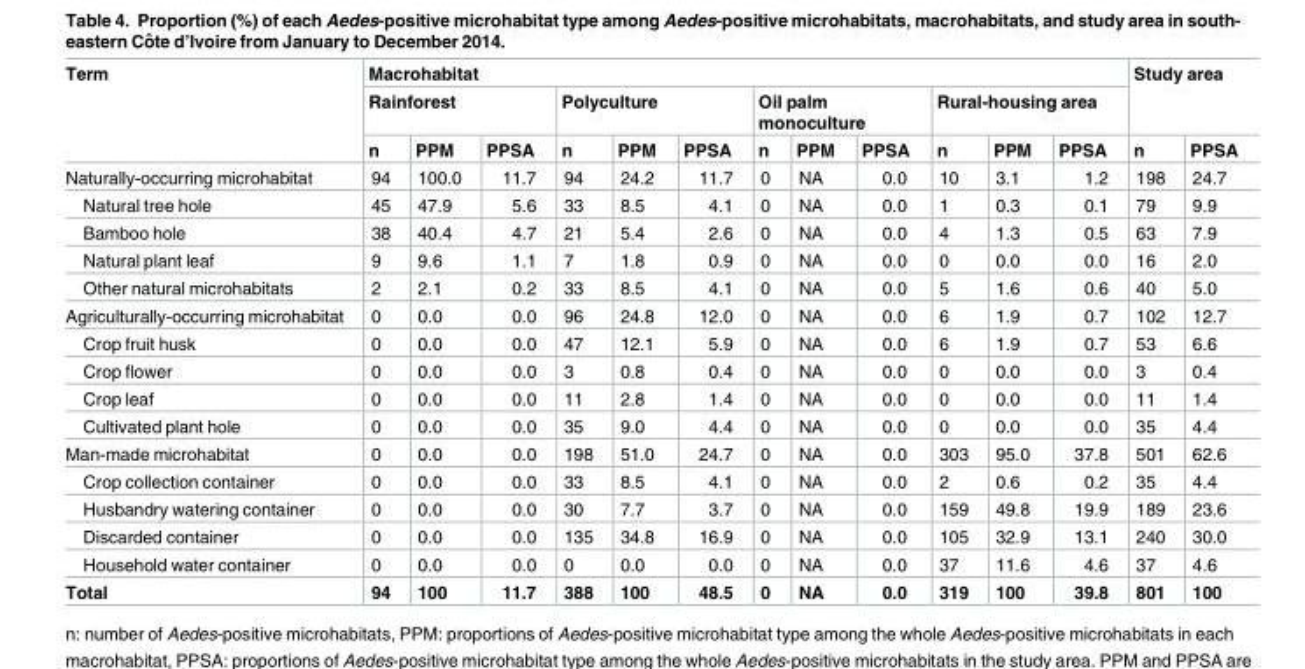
<table><thead><tr><td rowspan="3">Term</td><td colspan="12">Macrohabitat</td><td rowspan="2" colspan="2">Study area</td></tr><tr><td colspan="3">Rainforest</td><td colspan="3">Polyculture</td><td colspan="3">Oil palm monoculture</td><td colspan="3">Rural-housing area</td></tr><tr><td>n</td><td>PPM</td><td>PPSA</td><td>n</td><td>PPM</td><td>PPSA</td><td>n</td><td>PPM</td><td>PPSA</td><td>n</td><td>PPM</td><td>PPSA</td><td>n</td><td>PPSA</td></tr></thead><tbody><tr><td>Naturally-occurring microhabitat</td><td>94</td><td>100.0</td><td>11.7</td><td>94</td><td>24.2</td><td>11.7</td><td>0</td><td>NA</td><td>0.0</td><td>10</td><td>3.1</td><td>1.2</td><td>198</td><td>24.7</td></tr><tr><td>Natural tree hole</td><td>45</td><td>47.9</td><td>5.6</td><td>33</td><td>8.5</td><td>4.1</td><td>0</td><td>NA</td><td>0.0</td><td>1</td><td>0.3</td><td>0.1</td><td>79</td><td>9.9</td></tr><tr><td>Bamboo hole</td><td>38</td><td>40.4</td><td>4.7</td><td>21</td><td>5.4</td><td>2.6</td><td>0</td><td>NA</td><td>0.0</td><td>4</td><td>1.3</td><td>0.5</td><td>63</td><td>7.9</td></tr><tr><td>Natural plant leaf</td><td>9</td><td>9.6</td><td>1.1</td><td>7</td><td>1.8</td><td>0.9</td><td>0</td><td>NA</td><td>0.0</td><td>0</td><td>0.0</td><td>0.0</td><td>16</td><td>2.0</td></tr><tr><td>Other natural microhabitats</td><td>2</td><td>2.1</td><td>0.2</td><td>33</td><td>8.5</td><td>4.1</td><td>0</td><td>NA</td><td>0.0</td><td>5</td><td>1.6</td><td>0.6</td><td>40</td><td>5.0</td></tr><tr><td>Agriculturally-occurring microhabitat</td><td>0</td><td>0.0</td><td>0.0</td><td>96</td><td>24.8</td><td>12.0</td><td>0</td><td>NA</td><td>0.0</td><td>6</td><td>1.9</td><td>0.7</td><td>102</td><td>12.7</td></tr><tr><td>Crop fruit husk</td><td>0</td><td>0.0</td><td>0.0</td><td>47</td><td>12.1</td><td>5.9</td><td>0</td><td>NA</td><td>0.0</td><td>6</td><td>1.9</td><td>0.7</td><td>53</td><td>6.6</td></tr><tr><td>Crop flower</td><td>0</td><td>0.0</td><td>0.0</td><td>3</td><td>0.8</td><td>0.4</td><td>0</td><td>NA</td><td>0.0</td><td>0</td><td>0.0</td><td>0.0</td><td>3</td><td>0.4</td></tr><tr><td>Crop leaf</td><td>0</td><td>0.0</td><td>0.0</td><td>11</td><td>2.8</td><td>1.4</td><td>0</td><td>NA</td><td>0.0</td><td>0</td><td>0.0</td><td>0.0</td><td>11</td><td>1.4</td></tr><tr><td>Cultivated plant hole</td><td>0</td><td>0.0</td><td>0.0</td><td>35</td><td>9.0</td><td>4.4</td><td>0</td><td>NA</td><td>0.0</td><td>0</td><td>0.0</td><td>0.0</td><td>35</td><td>4.4</td></tr><tr><td>Man-made microhabitat</td><td>0</td><td>0.0</td><td>0.0</td><td>198</td><td>51.0</td><td>24.7</td><td>0</td><td>NA</td><td>0.0</td><td>303</td><td>95.0</td><td>37.8</td><td>501</td><td>62.6</td></tr><tr><td>Crop collection container</td><td>0</td><td>0.0</td><td>0.0</td><td>33</td><td>8.5</td><td>4.1</td><td>0</td><td>NA</td><td>0.0</td><td>2</td><td>0.6</td><td>0.2</td><td>35</td><td>4.4</td></tr><tr><td>Husbandry watering container</td><td>0</td><td>0.0</td><td>0.0</td><td>30</td><td>7.7</td><td>3.7</td><td>0</td><td>NA</td><td>0.0</td><td>159</td><td>49.8</td><td>19.9</td><td>189</td><td>23.6</td></tr><tr><td>Discarded container</td><td>0</td><td>0.0</td><td>0.0</td><td>135</td><td>34.8</td><td>16.9</td><td>0</td><td>NA</td><td>0.0</td><td>105</td><td>32.9</td><td>13.1</td><td>240</td><td>30.0</td></tr><tr><td>Household water container</td><td>0</td><td>0.0</td><td>0.0</td><td>0</td><td>0.0</td><td>0.0</td><td>0</td><td>NA</td><td>0.0</td><td>37</td><td>11.6</td><td>4.6</td><td>37</td><td>4.6</td></tr><tr><td>Total</td><td>94</td><td>100</td><td>11.7</td><td>388</td><td>100</td><td>48.5</td><td>0</td><td>NA</td><td>0.0</td><td>319</td><td>100</td><td>39.8</td><td>801</td><td>100</td></tr></tbody></table>